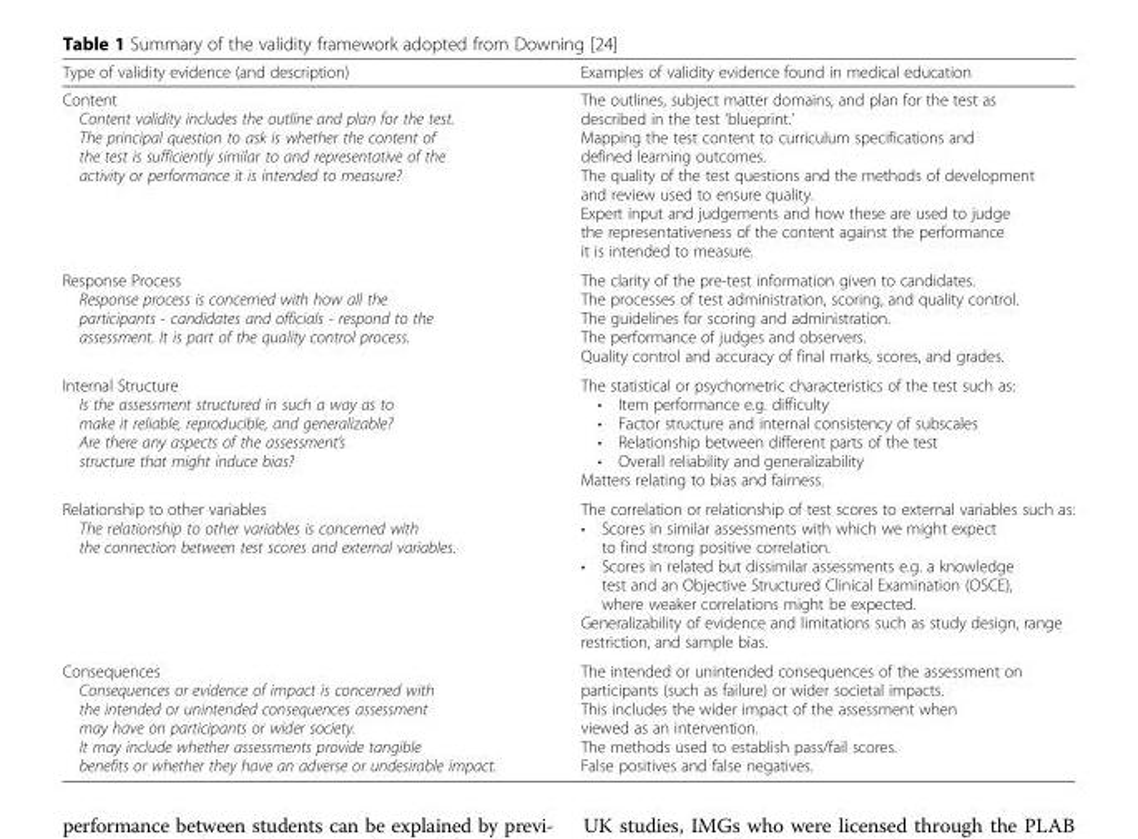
<table><thead><tr><td>Type of validity evidence (and description)</td><td>Examples of validity evidence found in medical education</td></tr></thead><tbody><tr><td>Content Content validity includes the outline and plan for the test. The principal question to ask is whether the content of the test is sufficiently similar to and representative of the activity or performance it is intended to measure?</td><td>The outlines, subject matter domains, and plan for the test as described in the test ‘blueprint.’ Mapping the test content to curriculum specifications and defined learning outcomes. The quality of the test questions and the methods of development and review used to ensure quality. Expert input and judgements and how these are used to judge the representativeness of the content against the performance it is intended to measure.</td></tr><tr><td>Response Process Response process is concerned with how all the participants - candidates and officials - respond to the assessment. It is part of the quality control process.</td><td>The clarity of the pre-test information given to candidates. The processes of test administration, scoring, and quality control. The guidelines for scoring and administration. The performance of judges and observers. Quality control and accuracy of final marks, scores, and grades.</td></tr><tr><td>Internal Structure Is the assessment structured in such a way as to make it reliable, reproducible, and generalizable? Are there any aspects of the assessment’s structure that might induce bias?</td><td>The statistical or psychometric characteristics of the test such as: • Item performance e.g. difficulty • Factor structure and internal consistency of subscales • Relationship between different parts of the test • Overall reliability and generalizability Matters relating to bias and fairness.</td></tr><tr><td>Relationship to other variables The relationship to other variables is concerned with the connection between test scores and external variables.</td><td>The correlation or relationship of test scores to external variables such as: • Scores in similar assessments with which we might expect to find strong positive correlation. • Scores in related but dissimilar assessments e.g. a knowledge test and an Objective Structured Clinical Examination (OSCE), where weaker correlations might be expected. Generalizability of evidence and limitations such as study design, range restriction, and sample bias.</td></tr><tr><td>Consequences Consequences or evidence of impact is concerned with the intended or unintended consequences assessment may have on participants or wider society. It may include whether assessments provide tangible benefits or whether they have an adverse or undesirable impact.</td><td>The intended or unintended consequences of the assessment on participants (such as failure) or wider societal impacts. This includes the wider impact of the assessment when viewed as an intervention. The methods used to establish pass/fail scores. False positives and false negatives.</td></tr></tbody></table>